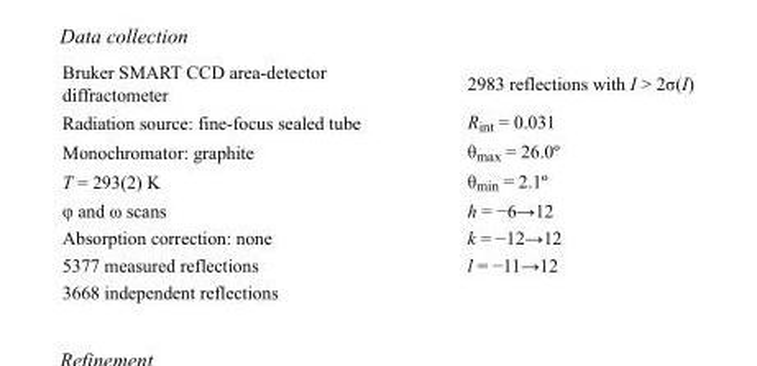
<table><tbody><tr><td>Bruker SMART CCD area-detector diffractometer</td><td>2983 reflections with I &gt; 2σ(I)</td></tr><tr><td>Radiation source: fine-focus sealed tube</td><td>R<sub>int</sub> = 0.031</td></tr><tr><td>Monochromator: graphite</td><td>θ<sub>max</sub> = 26.0º</td></tr><tr><td>T = 293(2) K</td><td>θ<sub>min</sub> = 2.1º</td></tr><tr><td>φ and ω scans</td><td>h = −6→12</td></tr><tr><td>Absorption correction: none</td><td>k = −12→12</td></tr><tr><td>5377 measured reflections</td><td>l = −11→12</td></tr><tr><td>3668 independent reflections</td><td></td></tr></tbody></table>